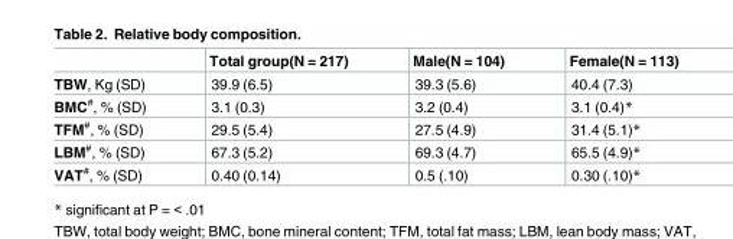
<table><thead><tr><td></td><td>Total group(N = 217)</td><td>Male(N = 104)</td><td>Female(N = 113)</td></tr></thead><tbody><tr><td>TBW, Kg (SD)</td><td>39.9 (6.5)</td><td>39.3 (5.6)</td><td>40.4 (7.3)</td></tr><tr><td>BMC<sup>#</sup>, % (SD)</td><td>3.1 (0.3)</td><td>3.2 (0.4)</td><td>3.1 (0.4)*</td></tr><tr><td>TFM<sup>#</sup>, % (SD)</td><td>29.5 (5.4)</td><td>27.5 (4.9)</td><td>31.4 (5.1)*</td></tr><tr><td>LBM<sup>#</sup>, % (SD)</td><td>67.3 (5.2)</td><td>69.3 (4.7)</td><td>65.5 (4.9)*</td></tr><tr><td>VAT<sup>#</sup>, % (SD)</td><td>0.40 (0.14)</td><td>0.5 (.10)</td><td>0.30 (.10)*</td></tr></tbody></table>